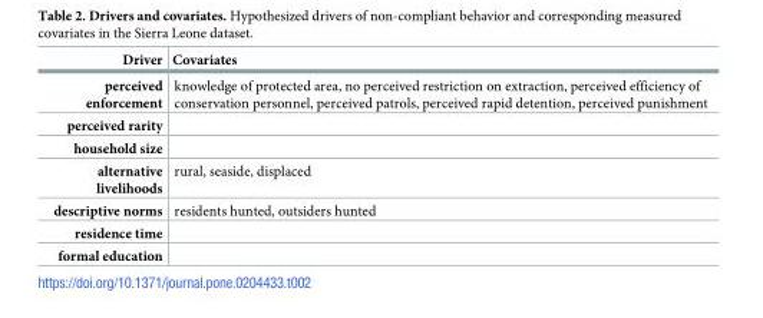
<table><thead><tr><td>Driver</td><td>Covariates</td></tr></thead><tbody><tr><td>perceived enforcement</td><td>knowledge of protected area, no perceived restriction on extraction, perceived efficiency of conservation personnel, perceived patrols, perceived rapid detention, perceived punishment</td></tr><tr><td colspan="2">perceived rarity</td></tr><tr><td colspan="2">household size</td></tr><tr><td>alternative livelihoods</td><td>rural, seaside, displaced</td></tr><tr><td>descriptive norms</td><td>residents hunted, outsiders hunted</td></tr><tr><td colspan="2">residence time</td></tr><tr><td>formal education</td><td></td></tr></tbody></table>